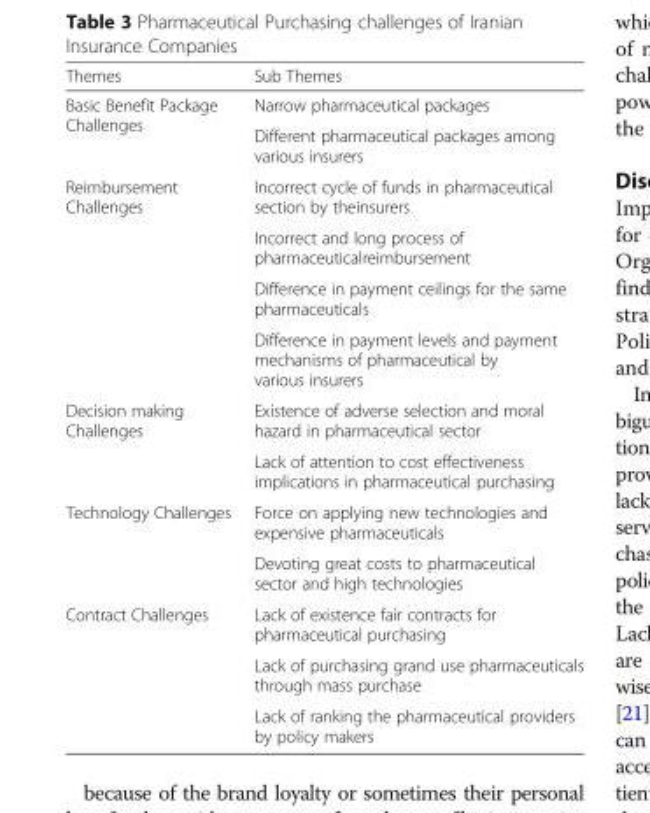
<table><thead><tr><td>Themes</td><td>Sub Themes</td></tr></thead><tbody><tr><td rowspan="2">Basic Benefit Package Challenges</td><td>Narrow pharmaceutical packages</td></tr><tr><td>Different pharmaceutical packages among various insurers</td></tr><tr><td rowspan="4">Reimbursement Challenges</td><td>Incorrect cycle of funds in pharmaceutical section by theinsurers</td></tr><tr><td>Incorrect and long process of pharmaceuticalreimbursement</td></tr><tr><td>Difference in payment ceilings for the same pharmaceuticals</td></tr><tr><td>Difference in payment levels and payment mechanisms of pharmaceutical by various insurers</td></tr><tr><td rowspan="2">Decision making Challenges</td><td>Existence of adverse selection and moral hazard in pharmaceutical sector</td></tr><tr><td>Lack of attention to cost effectiveness implications in pharmaceutical purchasing</td></tr><tr><td rowspan="2">Technology Challenges</td><td>Force on applying new technologies and expensive pharmaceuticals</td></tr><tr><td>Devoting great costs to pharmaceutical sector and high technologies</td></tr><tr><td rowspan="3">Contract Challenges</td><td>Lack of existence fair contracts for pharmaceutical purchasing</td></tr><tr><td>Lack of purchasing grand use pharmaceuticals through mass purchase</td></tr><tr><td>Lack of ranking the pharmaceutical providers by policy makers</td></tr></tbody></table>